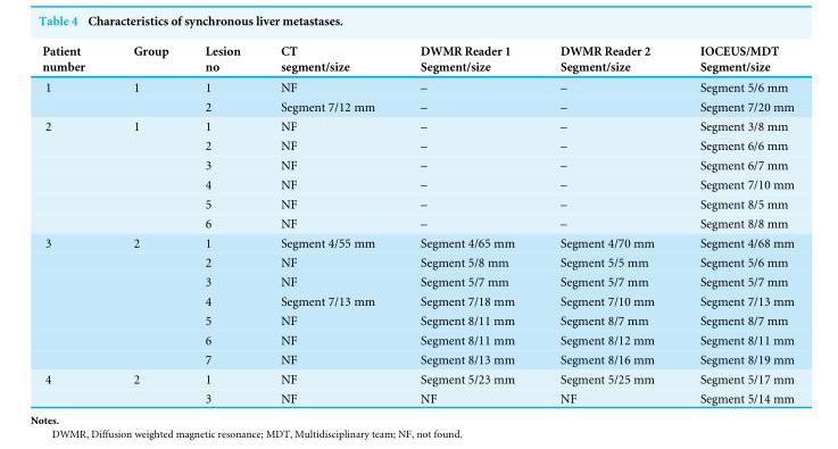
<table><thead><tr><td>Patient number</td><td>Group</td><td>Lesion no</td><td>CT segment/size</td><td>DWMR Reader 1 Segment/size</td><td>DWMR Reader 2 Segment/size</td><td>IOCEUS/MDT Segment/size</td></tr></thead><tbody><tr><td rowspan="2">1</td><td>1</td><td>1</td><td>NF</td><td>–</td><td>–</td><td>Segment 5/6 mm</td></tr><tr><td></td><td>2</td><td>Segment 7/12 mm</td><td>–</td><td>–</td><td>Segment 7/20 mm</td></tr><tr><td rowspan="6">2</td><td>1</td><td>1</td><td>NF</td><td>–</td><td>–</td><td>Segment 3/8 mm</td></tr><tr><td></td><td>2</td><td>NF</td><td>–</td><td>–</td><td>Segment 6/6 mm</td></tr><tr><td></td><td>3</td><td>NF</td><td>–</td><td>–</td><td>Segment 6/7 mm</td></tr><tr><td></td><td>4</td><td>NF</td><td>–</td><td>–</td><td>Segment 7/10 mm</td></tr><tr><td></td><td>5</td><td>NF</td><td>–</td><td>–</td><td>Segment 8/5 mm</td></tr><tr><td></td><td>6</td><td>NF</td><td>–</td><td>–</td><td>Segment 8/8 mm</td></tr><tr><td rowspan="7">3</td><td>2</td><td>1</td><td>Segment 4/55 mm</td><td>Segment 4/65 mm</td><td>Segment 4/70 mm</td><td>Segment 4/68 mm</td></tr><tr><td></td><td>2</td><td>NF</td><td>Segment 5/8 mm</td><td>Segment 5/5 mm</td><td>Segment 5/6 mm</td></tr><tr><td></td><td>3</td><td>NF</td><td>Segment 5/7 mm</td><td>Segment 5/7 mm</td><td>Segment 5/7 mm</td></tr><tr><td></td><td>4</td><td>Segment 7/13 mm</td><td>Segment 7/18 mm</td><td>Segment 7/10 mm</td><td>Segment 7/13 mm</td></tr><tr><td></td><td>5</td><td>NF</td><td>Segment 8/11 mm</td><td>Segment 8/7 mm</td><td>Segment 8/7 mm</td></tr><tr><td></td><td>6</td><td>NF</td><td>Segment 8/11 mm</td><td>Segment 8/12 mm</td><td>Segment 8/11 mm</td></tr><tr><td></td><td>7</td><td>NF</td><td>Segment 8/13 mm</td><td>Segment 8/16 mm</td><td>Segment 8/19 mm</td></tr><tr><td rowspan="2">4</td><td>2</td><td>1</td><td>NF</td><td>Segment 5/23 mm</td><td>Segment 5/25 mm</td><td>Segment 5/17 mm</td></tr><tr><td></td><td>3</td><td>NF</td><td>NF</td><td>NF</td><td>Segment 5/14 mm</td></tr></tbody></table>